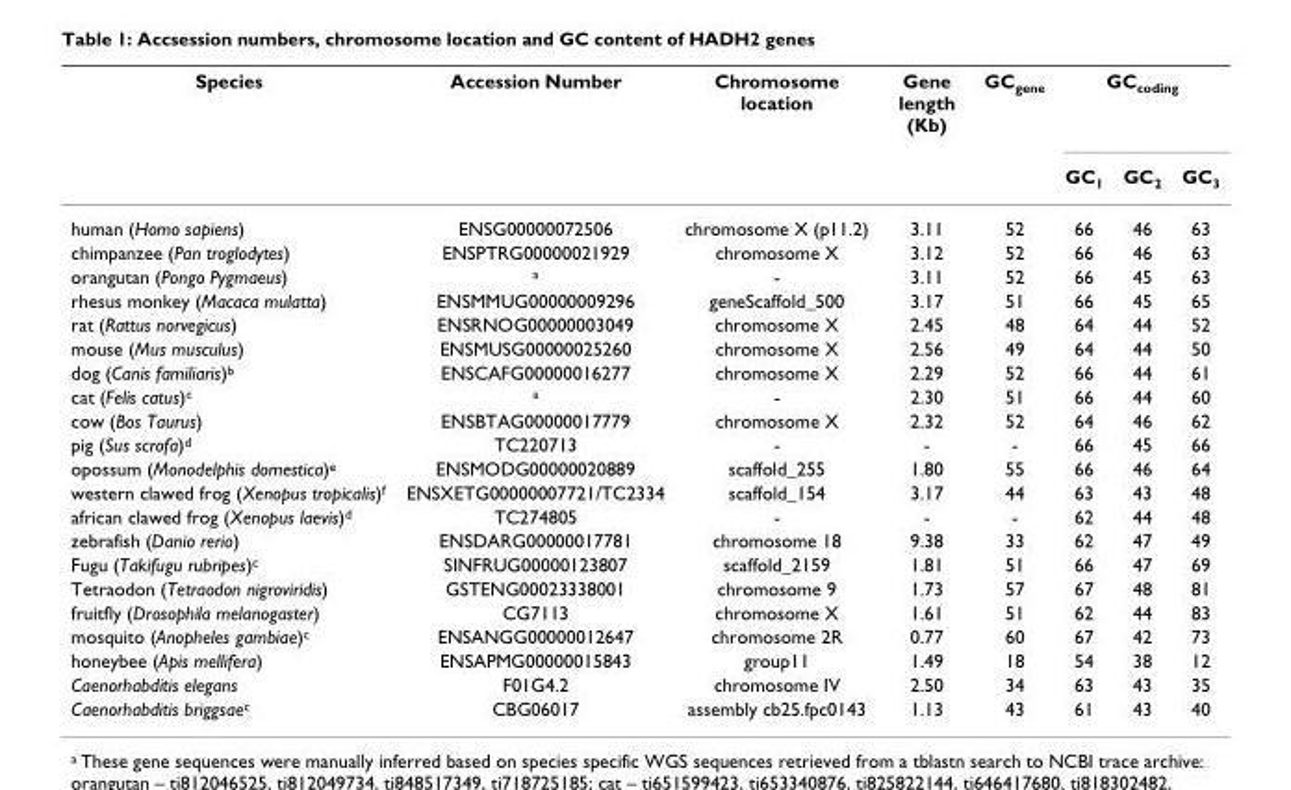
<table><thead><tr><td rowspan="2">Species</td><td rowspan="2">Accession Number</td><td rowspan="2">Chromosome location</td><td rowspan="2">Gene length (Kb)</td><td rowspan="2">GC<sub>gene</sub></td><td colspan="3">GC<sub>coding</sub></td></tr><tr><td>GC<sub>1</sub></td><td>GC<sub>2</sub></td><td>GC<sub>3</sub></td></tr></thead><tbody><tr><td>human (Homo sapiens)</td><td>ENSG00000072506</td><td>chromosome X (p11.2)</td><td>3.11</td><td>52</td><td>66</td><td>46</td><td>63</td></tr><tr><td>chimpanzee (Pan troglodytes)</td><td>ENSPTRG00000021929</td><td>chromosome X</td><td>3.12</td><td>52</td><td>66</td><td>46</td><td>63</td></tr><tr><td>orangutan (Pongo Pygmaeus)</td><td><sup>a</sup></td><td>-</td><td>3.11</td><td>52</td><td>66</td><td>45</td><td>63</td></tr><tr><td>rhesus monkey (Macaca mulatta)</td><td>ENSMMUG00000009296</td><td>geneScaffold_500</td><td>3.17</td><td>51</td><td>66</td><td>45</td><td>65</td></tr><tr><td>rat (Rattus norvegicus)</td><td>ENSRNOG00000003049</td><td>chromosome X</td><td>2.45</td><td>48</td><td>64</td><td>44</td><td>52</td></tr><tr><td>mouse (Mus musculus)</td><td>ENSMUSG00000025260</td><td>chromosome X</td><td>2.56</td><td>49</td><td>64</td><td>44</td><td>50</td></tr><tr><td>dog (Canis familiaris)<sup>b</sup></td><td>ENSCAFG00000016277</td><td>chromosome X</td><td>2.29</td><td>52</td><td>66</td><td>44</td><td>61</td></tr><tr><td>cat (Felis catus)<sup>c</sup></td><td><sup>a</sup></td><td>-</td><td>2.30</td><td>51</td><td>66</td><td>44</td><td>60</td></tr><tr><td>cow (Bos Taurus)</td><td>ENSBTAG00000017779</td><td>chromosome X</td><td>2.32</td><td>52</td><td>64</td><td>46</td><td>62</td></tr><tr><td>pig (Sus scrofa)<sup>d</sup></td><td>TC220713</td><td>-</td><td>-</td><td>-</td><td>66</td><td>45</td><td>66</td></tr><tr><td>opossum (Monodelphis domestica)<sup>e</sup></td><td>ENSMODG00000020889</td><td>scaffold_255</td><td>1.80</td><td>55</td><td>66</td><td>46</td><td>64</td></tr><tr><td>western clawed frog (Xenopus tropicalis)<sup>f</sup></td><td>ENSXETG00000007721/TC2334</td><td>scaffold_154</td><td>3.17</td><td>44</td><td>63</td><td>43</td><td>48</td></tr><tr><td>african clawed frog (Xenopus laevis)<sup>d</sup></td><td>TC274805</td><td>-</td><td>-</td><td>-</td><td>62</td><td>44</td><td>48</td></tr><tr><td>zebrafish (Danio rerio)</td><td>ENSDARG00000017781</td><td>chromosome 18</td><td>9.38</td><td>33</td><td>62</td><td>47</td><td>49</td></tr><tr><td>Fugu (Takifugu rubripes)<sup>c</sup></td><td>SINFRUG00000123807</td><td>scaffold_2159</td><td>1.81</td><td>51</td><td>66</td><td>47</td><td>69</td></tr><tr><td>Tetraodon (Tetraodon nigroviridis)</td><td>GSTENG00023338001</td><td>chromosome 9</td><td>1.73</td><td>57</td><td>67</td><td>48</td><td>81</td></tr><tr><td>fruitfly (Drosophila melanogaster)</td><td>CG7113</td><td>chromosome X</td><td>1.61</td><td>51</td><td>62</td><td>44</td><td>83</td></tr><tr><td>mosquito (Anopheles gambiae)<sup>c</sup></td><td>ENSANGG00000012647</td><td>chromosome 2R</td><td>0.77</td><td>60</td><td>67</td><td>42</td><td>73</td></tr><tr><td>honeybee (Apis mellifera)</td><td>ENSAPMG00000015843</td><td>group11</td><td>1.49</td><td>18</td><td>54</td><td>38</td><td>12</td></tr><tr><td>Caenorhabditis elegans</td><td>F01G4.2</td><td>chromosome IV</td><td>2.50</td><td>34</td><td>63</td><td>43</td><td>35</td></tr><tr><td>Caenorhabditis briggsae<sup>c</sup></td><td>CBG06017</td><td>assembly cb25.fpc0143</td><td>1.13</td><td>43</td><td>61</td><td>43</td><td>40</td></tr></tbody></table>